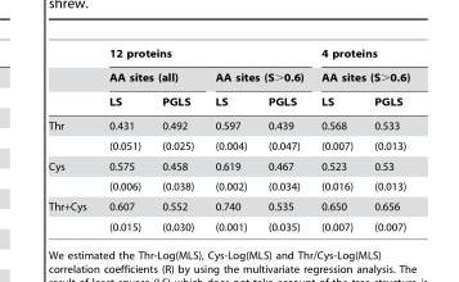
<table><thead><tr><td rowspan="3"></td><td colspan="4">12 proteins</td><td rowspan="2" colspan="2">4 proteins AA sites (S&gt;0.6)</td></tr><tr><td colspan="2">AA sites (all)</td><td colspan="2">AA sites (S&gt;0.6)</td></tr><tr><td>LS</td><td>PGLS</td><td>LS</td><td>PGLS</td><td>LS</td><td>PGLS</td></tr></thead><tbody><tr><td rowspan="2">Thr</td><td>0.431</td><td>0.492</td><td>0.597</td><td>0.439</td><td>0.568</td><td>0.533</td></tr><tr><td>(0.051)</td><td>(0.025)</td><td>(0.004)</td><td>(0.047)</td><td>(0.007)</td><td>(0.013)</td></tr><tr><td rowspan="2">Cys</td><td>0.575</td><td>0.458</td><td>0.619</td><td>0.467</td><td>0.523</td><td>0.53</td></tr><tr><td>(0.006)</td><td>(0.038)</td><td>(0.002)</td><td>(0.034)</td><td>(0.016)</td><td>(0.013)</td></tr><tr><td rowspan="2">Thr+Cys</td><td>0.607</td><td>0.552</td><td>0.740</td><td>0.535</td><td>0.650</td><td>0.656</td></tr><tr><td>(0.015)</td><td>(0.030)</td><td>(0.001)</td><td>(0.035)</td><td>(0.007)</td><td>(0.007)</td></tr></tbody></table>